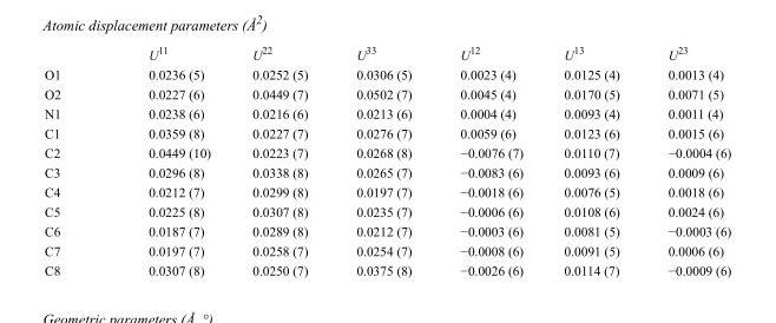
<table><thead><tr><td></td><td>U<sup>11</sup></td><td>U<sup>22</sup></td><td>U<sup>33</sup></td><td>U<sup>12</sup></td><td>U<sup>13</sup></td><td>U<sup>23</sup></td></tr></thead><tbody><tr><td>O1</td><td>0.0236 (5)</td><td>0.0252 (5)</td><td>0.0306 (5)</td><td>0.0023 (4)</td><td>0.0125 (4)</td><td>0.0013 (4)</td></tr><tr><td>O2</td><td>0.0227 (6)</td><td>0.0449 (7)</td><td>0.0502 (7)</td><td>0.0045 (4)</td><td>0.0170 (5)</td><td>0.0071 (5)</td></tr><tr><td>N1</td><td>0.0238 (6)</td><td>0.0216 (6)</td><td>0.0213 (6)</td><td>0.0004 (4)</td><td>0.0093 (4)</td><td>0.0011 (4)</td></tr><tr><td>C1</td><td>0.0359 (8)</td><td>0.0227 (7)</td><td>0.0276 (7)</td><td>0.0059 (6)</td><td>0.0123 (6)</td><td>0.0015 (6)</td></tr><tr><td>C2</td><td>0.0449 (10)</td><td>0.0223 (7)</td><td>0.0268 (8)</td><td>−0.0076 (7)</td><td>0.0110 (7)</td><td>−0.0004 (6)</td></tr><tr><td>C3</td><td>0.0296 (8)</td><td>0.0338 (8)</td><td>0.0265 (7)</td><td>−0.0083 (6)</td><td>0.0093 (6)</td><td>0.0009 (6)</td></tr><tr><td>C4</td><td>0.0212 (7)</td><td>0.0299 (8)</td><td>0.0197 (7)</td><td>−0.0018 (6)</td><td>0.0076 (5)</td><td>0.0018 (6)</td></tr><tr><td>C5</td><td>0.0225 (8)</td><td>0.0307 (8)</td><td>0.0235 (7)</td><td>−0.0006 (6)</td><td>0.0108 (6)</td><td>0.0024 (6)</td></tr><tr><td>C6</td><td>0.0187 (7)</td><td>0.0289 (8)</td><td>0.0212 (7)</td><td>−0.0003 (6)</td><td>0.0081 (5)</td><td>−0.0003 (6)</td></tr><tr><td>C7</td><td>0.0197 (7)</td><td>0.0258 (7)</td><td>0.0254 (7)</td><td>−0.0008 (6)</td><td>0.0091 (5)</td><td>0.0006 (6)</td></tr><tr><td>C8</td><td>0.0307 (8)</td><td>0.0250 (7)</td><td>0.0375 (8)</td><td>−0.0026 (6)</td><td>0.0114 (7)</td><td>−0.0009 (6)</td></tr></tbody></table>